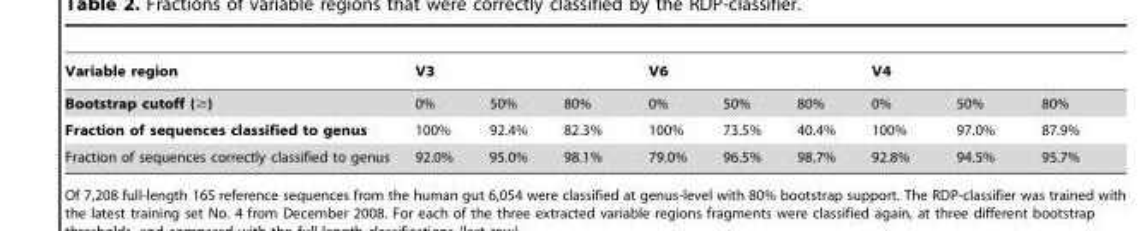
<table><thead><tr><td>Variable region</td><td>V3</td><td></td><td></td><td>V6</td><td></td><td></td><td>V4</td><td></td><td></td></tr></thead><tbody><tr><td>Bootstrap cutoff (≥)</td><td>0%</td><td>50%</td><td>80%</td><td>0%</td><td>50%</td><td>80%</td><td>0%</td><td>50%</td><td>80%</td></tr><tr><td>Fraction of sequences classified to genus</td><td>100%</td><td>92.4%</td><td>82.3%</td><td>100%</td><td>73.5%</td><td>40.4%</td><td>100%</td><td>97.0%</td><td>87.9%</td></tr><tr><td>Fraction of sequences correctly classified to genus</td><td>92.0%</td><td>95.0%</td><td>98.1%</td><td>79.0%</td><td>96.5%</td><td>98.7%</td><td>92.8%</td><td>94.5%</td><td>95.7%</td></tr></tbody></table>